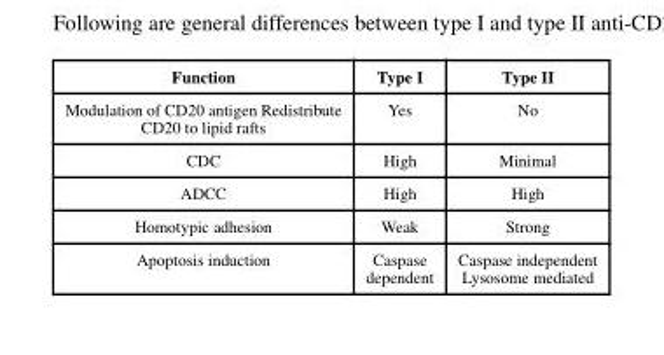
<table><thead><tr><td>Function</td><td>Type I</td><td>Type II</td></tr></thead><tbody><tr><td>Modulation of CD20 antigen Redistribute CD20 to lipid rafts</td><td>Yes</td><td>No</td></tr><tr><td>CDC</td><td>High</td><td>Minimal</td></tr><tr><td>ADCC</td><td>High</td><td>High</td></tr><tr><td>Homotypic adhesion</td><td>Weak</td><td>Strong</td></tr><tr><td>Apoptosis induction</td><td>Caspase dependent</td><td>Caspase independent Lysosome mediated</td></tr></tbody></table>